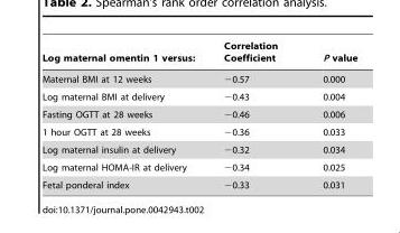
<table><thead><tr><td>Log maternal omentin 1 versus:</td><td>Correlation Coefficient</td><td>P value</td></tr></thead><tbody><tr><td>Maternal BMI at 12 weeks</td><td>−0.57</td><td>0.000</td></tr><tr><td>Log maternal BMI at delivery</td><td>−0.43</td><td>0.004</td></tr><tr><td>Fasting OGTT at 28 weeks</td><td>−0.46</td><td>0.006</td></tr><tr><td>1 hour OGTT at 28 weeks</td><td>−0.36</td><td>0.033</td></tr><tr><td>Log maternal insulin at delivery</td><td>−0.32</td><td>0.034</td></tr><tr><td>Log maternal HOMA-IR at delivery</td><td>−0.34</td><td>0.025</td></tr><tr><td>Fetal ponderal index</td><td>−0.33</td><td>0.031</td></tr></tbody></table>